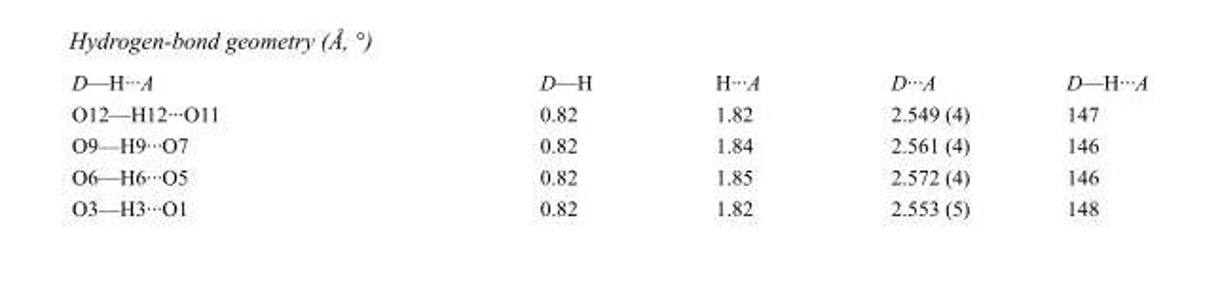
<table><tbody><tr><td>D—H···A</td><td>D—H</td><td>H···A</td><td>D···A</td><td>D—H···A</td></tr><tr><td>O12—H12···O11</td><td>0.82</td><td>1.82</td><td>2.549 (4)</td><td>147</td></tr><tr><td>O9—H9···O7</td><td>0.82</td><td>1.84</td><td>2.561 (4)</td><td>146</td></tr><tr><td>O6—H6···O5</td><td>0.82</td><td>1.85</td><td>2.572 (4)</td><td>146</td></tr><tr><td>O3—H3···O1</td><td>0.82</td><td>1.82</td><td>2.553 (5)</td><td>148</td></tr></tbody></table>